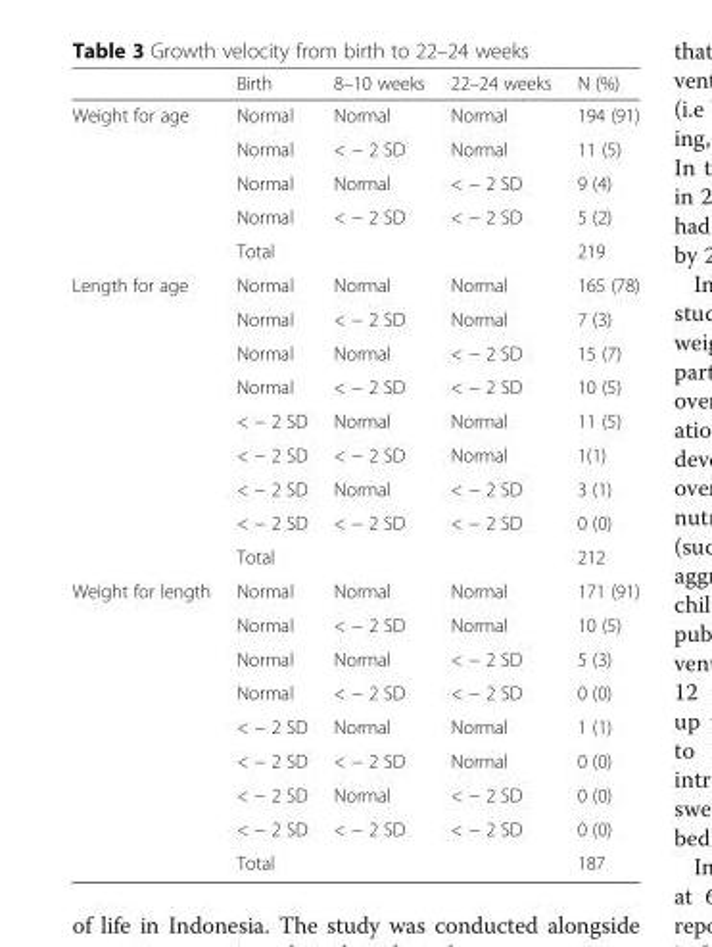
<table><thead><tr><td></td><td>Birth</td><td>8–10 weeks</td><td>22–24 weeks</td><td>N (%)</td></tr></thead><tbody><tr><td rowspan="5">Weight for age</td><td>Normal</td><td>Normal</td><td>Normal</td><td>194 (91)</td></tr><tr><td>Normal</td><td>&lt; − 2 SD</td><td>Normal</td><td>11 (5)</td></tr><tr><td>Normal</td><td>Normal</td><td>&lt; − 2 SD</td><td>9 (4)</td></tr><tr><td>Normal</td><td>&lt; − 2 SD</td><td>&lt; − 2 SD</td><td>5 (2)</td></tr><tr><td colspan="3">Total</td><td>219</td></tr><tr><td rowspan="9">Length for age</td><td>Normal</td><td>Normal</td><td>Normal</td><td>165 (78)</td></tr><tr><td>Normal</td><td>&lt; − 2 SD</td><td>Normal</td><td>7 (3)</td></tr><tr><td>Normal</td><td>Normal</td><td>&lt; − 2 SD</td><td>15 (7)</td></tr><tr><td>Normal</td><td>&lt; − 2 SD</td><td>&lt; − 2 SD</td><td>10 (5)</td></tr><tr><td>&lt; − 2 SD</td><td>Normal</td><td>Normal</td><td>11 (5)</td></tr><tr><td>&lt; − 2 SD</td><td>&lt; − 2 SD</td><td>Normal</td><td>1(1)</td></tr><tr><td>&lt; − 2 SD</td><td>Normal</td><td>&lt; − 2 SD</td><td>3 (1)</td></tr><tr><td>&lt; − 2 SD</td><td>&lt; − 2 SD</td><td>&lt; − 2 SD</td><td>0 (0)</td></tr><tr><td colspan="3">Total</td><td>212</td></tr><tr><td rowspan="9">Weight for length</td><td>Normal</td><td>Normal</td><td>Normal</td><td>171 (91)</td></tr><tr><td>Normal</td><td>&lt; − 2 SD</td><td>Normal</td><td>10 (5)</td></tr><tr><td>Normal</td><td>Normal</td><td>&lt; − 2 SD</td><td>5 (3)</td></tr><tr><td>Normal</td><td>&lt; − 2 SD</td><td>&lt; − 2 SD</td><td>0 (0)</td></tr><tr><td>&lt; − 2 SD</td><td>Normal</td><td>Normal</td><td>1 (1)</td></tr><tr><td>&lt; − 2 SD</td><td>&lt; − 2 SD</td><td>Normal</td><td>0 (0)</td></tr><tr><td>&lt; − 2 SD</td><td>Normal</td><td>&lt; − 2 SD</td><td>0 (0)</td></tr><tr><td>&lt; − 2 SD</td><td>&lt; − 2 SD</td><td>&lt; − 2 SD</td><td>0 (0)</td></tr><tr><td colspan="3">Total</td><td>187</td></tr></tbody></table>